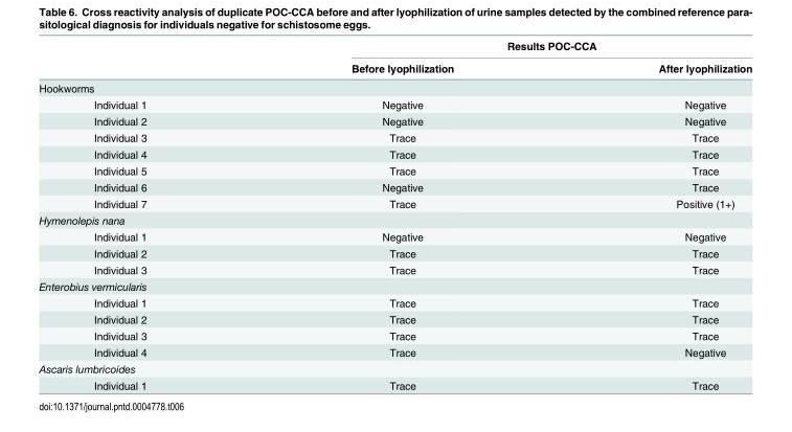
<table><thead><tr><td rowspan="2"></td><td colspan="2">Results POC-CCA</td></tr><tr><td>Before lyophilization</td><td>After lyophilization</td></tr></thead><tbody><tr><td colspan="3">Hookworms</td></tr><tr><td>Individual 1</td><td>Negative</td><td>Negative</td></tr><tr><td>Individual 2</td><td>Negative</td><td>Negative</td></tr><tr><td>Individual 3</td><td>Trace</td><td>Trace</td></tr><tr><td>Individual 4</td><td>Trace</td><td>Trace</td></tr><tr><td>Individual 5</td><td>Trace</td><td>Trace</td></tr><tr><td>Individual 6</td><td>Negative</td><td>Trace</td></tr><tr><td>Individual 7</td><td>Trace</td><td>Positive (1+)</td></tr><tr><td colspan="3">Hymenolepis nana</td></tr><tr><td>Individual 1</td><td>Negative</td><td>Negative</td></tr><tr><td>Individual 2</td><td>Trace</td><td>Trace</td></tr><tr><td>Individual 3</td><td>Trace</td><td>Trace</td></tr><tr><td colspan="3">Enterobius vermicularis</td></tr><tr><td>Individual 1</td><td>Trace</td><td>Trace</td></tr><tr><td>Individual 2</td><td>Trace</td><td>Trace</td></tr><tr><td>Individual 3</td><td>Trace</td><td>Trace</td></tr><tr><td>Individual 4</td><td>Trace</td><td>Negative</td></tr><tr><td colspan="3">Ascaris lumbricoides</td></tr><tr><td>Individual 1</td><td>Trace</td><td>Trace</td></tr></tbody></table>